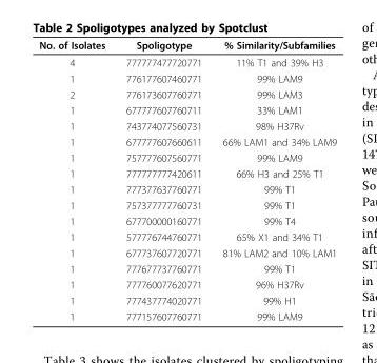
<table><thead><tr><td>No. of Isolates</td><td>Spoligotype</td><td>% Similarity/Subfamilies</td></tr></thead><tbody><tr><td>4</td><td>777777477720771</td><td>11% T1 and 39% H3</td></tr><tr><td>1</td><td>776177607460771</td><td>99% LAM9</td></tr><tr><td>2</td><td>776173607760771</td><td>99% LAM3</td></tr><tr><td>1</td><td>677777607760711</td><td>33% LAM1</td></tr><tr><td>1</td><td>743774077560731</td><td>98% H37Rv</td></tr><tr><td>1</td><td>677777607660611</td><td>66% LAM1 and 34% LAM9</td></tr><tr><td>1</td><td>757777607560771</td><td>99% LAM9</td></tr><tr><td>1</td><td>777777777420611</td><td>66% H3 and 25% T1</td></tr><tr><td>1</td><td>777377637760771</td><td>99% T1</td></tr><tr><td>1</td><td>757377777760731</td><td>99% T1</td></tr><tr><td>1</td><td>677700000160771</td><td>99% T4</td></tr><tr><td>1</td><td>577776744760771</td><td>65% X1 and 34% T1</td></tr><tr><td>1</td><td>677737607720771</td><td>81% LAM2 and 10% LAM1</td></tr><tr><td>1</td><td>777677737760771</td><td>99% T1</td></tr><tr><td>1</td><td>777760077620771</td><td>96% H37Rv</td></tr><tr><td>1</td><td>777437774020771</td><td>99% H1</td></tr><tr><td>1</td><td>777157607760771</td><td>99% LAM9</td></tr></tbody></table>